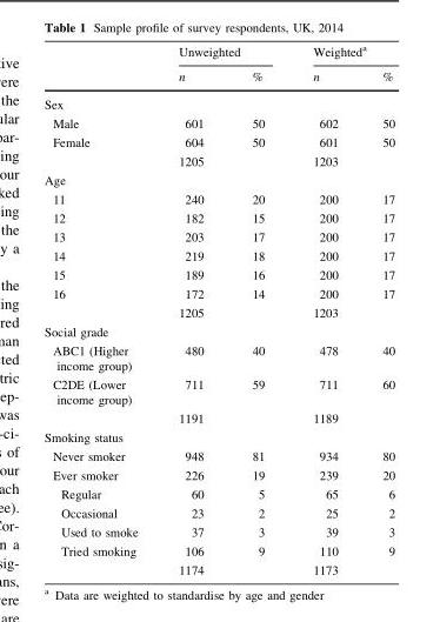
<table><thead><tr><td rowspan="2"></td><td colspan="2">Unweighted</td><td colspan="2">Weighted<sup>a</sup></td></tr><tr><td>n</td><td>%</td><td>n</td><td>%</td></tr></thead><tbody><tr><td colspan="5">Sex</td></tr><tr><td>Male</td><td>601</td><td>50</td><td>602</td><td>50</td></tr><tr><td rowspan="2">Female</td><td>604</td><td>50</td><td>601</td><td>50</td></tr><tr><td>1205</td><td></td><td>1203</td><td></td></tr><tr><td colspan="5">Age</td></tr><tr><td>11</td><td>240</td><td>20</td><td>200</td><td>17</td></tr><tr><td>12</td><td>182</td><td>15</td><td>200</td><td>17</td></tr><tr><td>13</td><td>203</td><td>17</td><td>200</td><td>17</td></tr><tr><td>14</td><td>219</td><td>18</td><td>200</td><td>17</td></tr><tr><td>15</td><td>189</td><td>16</td><td>200</td><td>17</td></tr><tr><td rowspan="2">16</td><td>172</td><td>14</td><td>200</td><td>17</td></tr><tr><td>1205</td><td></td><td>1203</td><td></td></tr><tr><td colspan="5">Social grade</td></tr><tr><td>ABC1 (Higher income group)</td><td>480</td><td>40</td><td>478</td><td>40</td></tr><tr><td rowspan="2">C2DE (Lower income group)</td><td>711</td><td>59</td><td>711</td><td>60</td></tr><tr><td>1191</td><td></td><td>1189</td><td></td></tr><tr><td colspan="5">Smoking status</td></tr><tr><td>Never smoker</td><td>948</td><td>81</td><td>934</td><td>80</td></tr><tr><td>Ever smoker</td><td>226</td><td>19</td><td>239</td><td>20</td></tr><tr><td>Regular</td><td>60</td><td>5</td><td>65</td><td>6</td></tr><tr><td>Occasional</td><td>23</td><td>2</td><td>25</td><td>2</td></tr><tr><td>Used to smoke</td><td>37</td><td>3</td><td>39</td><td>3</td></tr><tr><td rowspan="2">Tried smoking</td><td>106</td><td>9</td><td>110</td><td>9</td></tr><tr><td>1174</td><td></td><td>1173</td><td></td></tr></tbody></table>